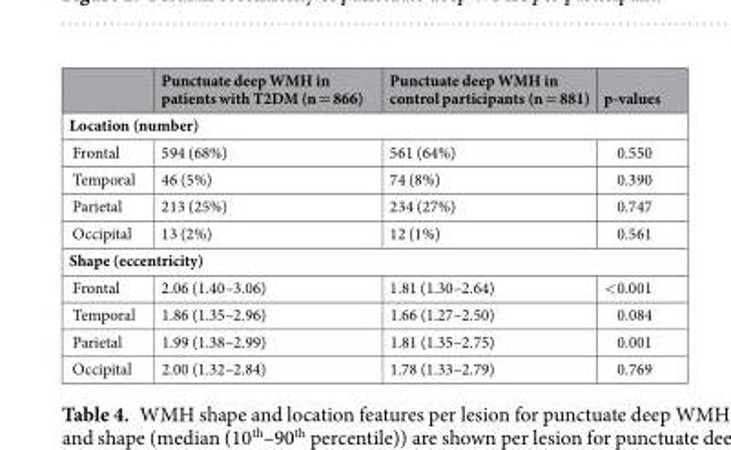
<table><thead><tr><td></td><td>Punctuate deep WMH in patients with T2DM (n = 866)</td><td>Punctuate deep WMH in control participants (n = 881)</td><td>p-values</td></tr></thead><tbody><tr><td colspan="4">Location (number)</td></tr><tr><td>Frontal</td><td>594 (68%)</td><td>561 (64%)</td><td>0.550</td></tr><tr><td>Temporal</td><td>46 (5%)</td><td>74 (8%)</td><td>0.390</td></tr><tr><td>Parietal</td><td>213 (25%)</td><td>234 (27%)</td><td>0.747</td></tr><tr><td>Occipital</td><td>13 (2%)</td><td>12 (1%)</td><td>0.561</td></tr><tr><td colspan="4">Shape (eccentricity)</td></tr><tr><td>Frontal</td><td>2.06 (1.40–3.06)</td><td>1.81 (1.30–2.64)</td><td>&lt;0.001</td></tr><tr><td>Temporal</td><td>1.86 (1.35–2.96)</td><td>1.66 (1.27–2.50)</td><td>0.084</td></tr><tr><td>Parietal</td><td>1.99 (1.38–2.99)</td><td>1.81 (1.35–2.75)</td><td>0.001</td></tr><tr><td>Occipital</td><td>2.00 (1.32–2.84)</td><td>1.78 (1.33–2.79)</td><td>0.769</td></tr></tbody></table>